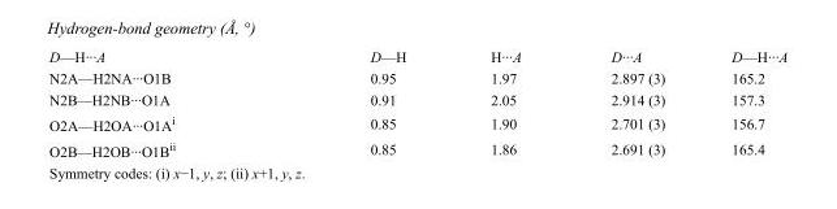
<table><tbody><tr><td>D—H···A</td><td>D—H</td><td>H···A</td><td>D···A</td><td>D—H···A</td></tr><tr><td>N2A—H2NA···O1B</td><td>0.95</td><td>1.97</td><td>2.897 (3)</td><td>165.2</td></tr><tr><td>N2B—H2NB···O1A</td><td>0.91</td><td>2.05</td><td>2.914 (3)</td><td>157.3</td></tr><tr><td>O2A—H2OA···O1A<sup>i</sup></td><td>0.85</td><td>1.90</td><td>2.701 (3)</td><td>156.7</td></tr><tr><td>O2B—H2OB···O1B<sup>ii</sup></td><td>0.85</td><td>1.86</td><td>2.691 (3)</td><td>165.4</td></tr></tbody></table>